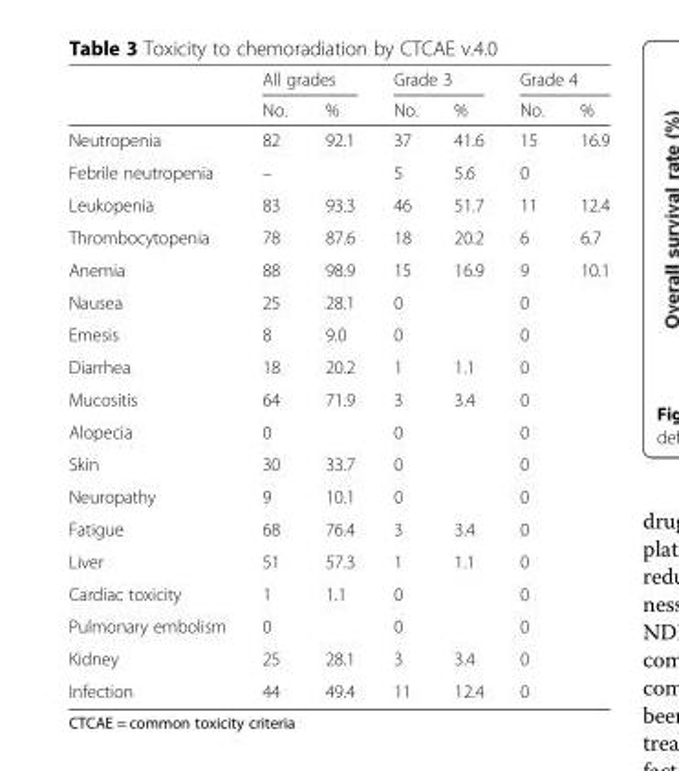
<table><thead><tr><td rowspan="2"></td><td colspan="2">All grades</td><td colspan="2">Grade 3</td><td colspan="2">Grade 4</td></tr><tr><td>No.</td><td>%</td><td>No.</td><td>%</td><td>No.</td><td>%</td></tr></thead><tbody><tr><td>Neutropenia</td><td>82</td><td>92.1</td><td>37</td><td>41.6</td><td>15</td><td>16.9</td></tr><tr><td>Febrile neutropenia</td><td colspan="2">–</td><td>5</td><td>5.6</td><td colspan="2">0</td></tr><tr><td>Leukopenia</td><td>83</td><td>93.3</td><td>46</td><td>51.7</td><td>11</td><td>12.4</td></tr><tr><td>Thrombocytopenia</td><td>78</td><td>87.6</td><td>18</td><td>20.2</td><td>6</td><td>6.7</td></tr><tr><td>Anemia</td><td>88</td><td>98.9</td><td>15</td><td>16.9</td><td>9</td><td>10.1</td></tr><tr><td>Nausea</td><td>25</td><td>28.1</td><td colspan="2">0</td><td colspan="2">0</td></tr><tr><td>Emesis</td><td>8</td><td>9.0</td><td colspan="2">0</td><td colspan="2">0</td></tr><tr><td>Diarrhea</td><td>18</td><td>20.2</td><td>1</td><td>1.1</td><td colspan="2">0</td></tr><tr><td>Mucositis</td><td>64</td><td>71.9</td><td>3</td><td>3.4</td><td colspan="2">0</td></tr><tr><td>Alopecia</td><td colspan="2">0</td><td colspan="2">0</td><td colspan="2">0</td></tr><tr><td>Skin</td><td>30</td><td>33.7</td><td colspan="2">0</td><td colspan="2">0</td></tr><tr><td>Neuropathy</td><td>9</td><td>10.1</td><td colspan="2">0</td><td colspan="2">0</td></tr><tr><td>Fatigue</td><td>68</td><td>76.4</td><td>3</td><td>3.4</td><td colspan="2">0</td></tr><tr><td>Liver</td><td>51</td><td>57.3</td><td>1</td><td>1.1</td><td colspan="2">0</td></tr><tr><td>Cardiac toxicity</td><td>1</td><td>1.1</td><td colspan="2">0</td><td colspan="2">0</td></tr><tr><td>Pulmonary embolism</td><td colspan="2">0</td><td colspan="2">0</td><td colspan="2">0</td></tr><tr><td>Kidney</td><td>25</td><td>28.1</td><td>3</td><td>3.4</td><td colspan="2">0</td></tr><tr><td>Infection</td><td>44</td><td>49.4</td><td>11</td><td>12.4</td><td colspan="2">0</td></tr></tbody></table>